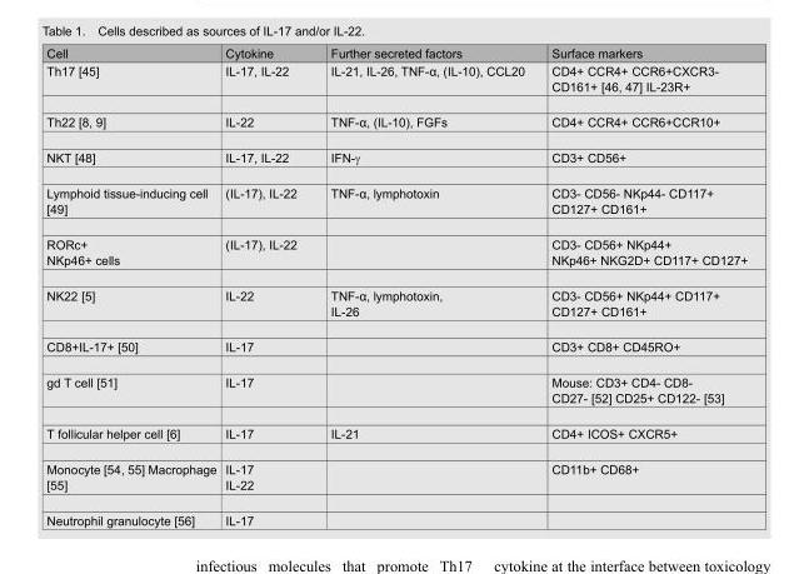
<table><thead><tr><td>Cell</td><td>Cytokine</td><td>Further secreted factors</td><td>Surface markers</td></tr></thead><tbody><tr><td>Th17 [45]</td><td>IL-17, IL-22</td><td>IL-21, IL-26, TNF-α, (IL-10), CCL20</td><td>CD4+ CCR4+ CCR6+CXCR3- CD161+ [46, 47] IL-23R+</td></tr><tr><td>Th22 [8, 9]</td><td>IL-22</td><td>TNF-α, (IL-10), FGFs</td><td>CD4+ CCR4+ CCR6+CCR10+</td></tr><tr><td>NKT [48]</td><td>IL-17, IL-22</td><td>IFN-g</td><td>CD3+ CD56+</td></tr><tr><td>Lymphoid tissue-inducing cell [49]</td><td>(IL-17), IL-22</td><td>TNF-α, lymphotoxin</td><td>CD3- CD56- NKp44- CD117+ CD127+ CD161+</td></tr><tr><td>RORc+ NKp46+ cells</td><td>(IL-17), IL-22</td><td></td><td>CD3- CD56+ NKp44+ NKp46+ NKG2D+ CD117+ CD127+</td></tr><tr><td>NK22 [5]</td><td>IL-22</td><td>TNF-α, lymphotoxin, IL-26</td><td>CD3- CD56+ NKp44+ CD117+ CD127+ CD161+</td></tr><tr><td>CD8+IL-17+ [50]</td><td>IL-17</td><td></td><td>CD3+ CD8+ CD45RO+</td></tr><tr><td>gd T cell [51]</td><td>IL-17</td><td></td><td>Mouse: CD3+ CD4- CD8- CD27- [52] CD25+ CD122- [53]</td></tr><tr><td>T follicular helper cell [6]</td><td>IL-17</td><td>IL-21</td><td>CD4+ ICOS+ CXCR5+</td></tr><tr><td>Monocyte [5<sup>4</sup>, <sup>55</sup>] Macrophage [55]</td><td>IL-17 IL-22</td><td></td><td>CD11b+ CD68+</td></tr><tr><td>Neutrophil granulocyte [56]</td><td>IL-17</td><td></td><td></td></tr></tbody></table>